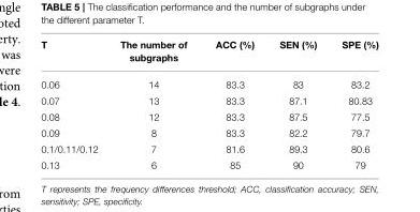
<table><thead><tr><td>T</td><td>The number of subgraphs</td><td>ACC (%)</td><td>SEN (%)</td><td>SPE (%)</td></tr></thead><tbody><tr><td>0.06</td><td>14</td><td>83.3</td><td>83</td><td>83.2</td></tr><tr><td>0.07</td><td>13</td><td>83.3</td><td>87.1</td><td>80.83</td></tr><tr><td>0.08</td><td>12</td><td>83.3</td><td>87.5</td><td>77.5</td></tr><tr><td>0.09</td><td>8</td><td>83.3</td><td>82.2</td><td>79.7</td></tr><tr><td>0.1/0.11/0.12</td><td>7</td><td>81.6</td><td>89.3</td><td>80.6</td></tr><tr><td>0.13</td><td>6</td><td>85</td><td>90</td><td>79</td></tr></tbody></table>